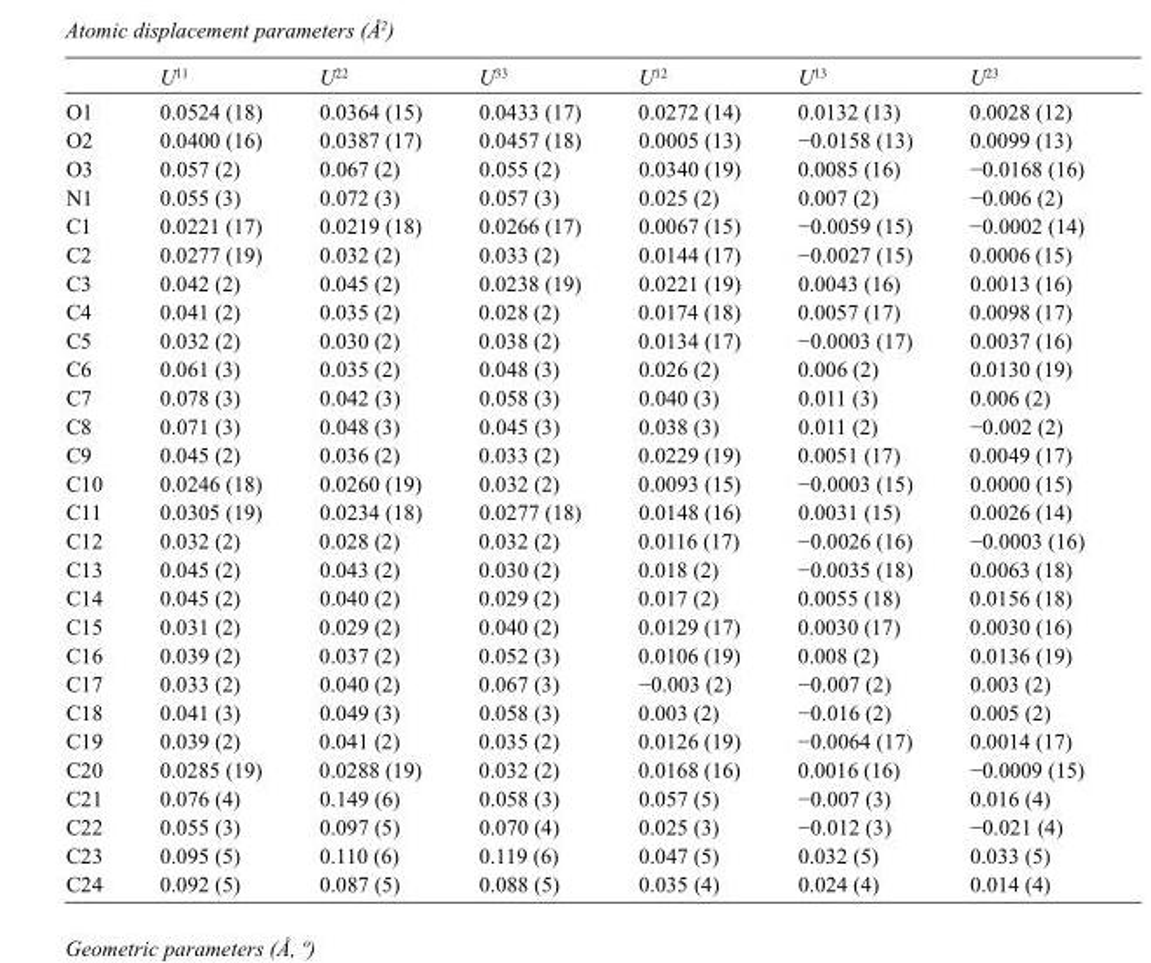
<table><thead><tr><td></td><td>U<sup>11</sup></td><td>U<sup>22</sup></td><td>U<sup>33</sup></td><td>U<sup>12</sup></td><td>U<sup>13</sup></td><td>U<sup>23</sup></td></tr></thead><tbody><tr><td>O1</td><td>0.0524 (18)</td><td>0.0364 (15)</td><td>0.0433 (17)</td><td>0.0272 (14)</td><td>0.0132 (13)</td><td>0.0028 (12)</td></tr><tr><td>O2</td><td>0.0400 (16)</td><td>0.0387 (17)</td><td>0.0457 (18)</td><td>0.0005 (13)</td><td>−0.0158 (13)</td><td>0.0099 (13)</td></tr><tr><td>O3</td><td>0.057 (2)</td><td>0.067 (2)</td><td>0.055 (2)</td><td>0.0340 (19)</td><td>0.0085 (16)</td><td>−0.0168 (16)</td></tr><tr><td>N1</td><td>0.055 (3)</td><td>0.072 (3)</td><td>0.057 (3)</td><td>0.025 (2)</td><td>0.007 (2)</td><td>−0.006 (2)</td></tr><tr><td>C1</td><td>0.0221 (17)</td><td>0.0219 (18)</td><td>0.0266 (17)</td><td>0.0067 (15)</td><td>−0.0059 (15)</td><td>−0.0002 (14)</td></tr><tr><td>C2</td><td>0.0277 (19)</td><td>0.032 (2)</td><td>0.033 (2)</td><td>0.0144 (17)</td><td>−0.0027 (15)</td><td>0.0006 (15)</td></tr><tr><td>C3</td><td>0.042 (2)</td><td>0.045 (2)</td><td>0.0238 (19)</td><td>0.0221 (19)</td><td>0.0043 (16)</td><td>0.0013 (16)</td></tr><tr><td>C4</td><td>0.041 (2)</td><td>0.035 (2)</td><td>0.028 (2)</td><td>0.0174 (18)</td><td>0.0057 (17)</td><td>0.0098 (17)</td></tr><tr><td>C5</td><td>0.032 (2)</td><td>0.030 (2)</td><td>0.038 (2)</td><td>0.0134 (17)</td><td>−0.0003 (17)</td><td>0.0037 (16)</td></tr><tr><td>C6</td><td>0.061 (3)</td><td>0.035 (2)</td><td>0.048 (3)</td><td>0.026 (2)</td><td>0.006 (2)</td><td>0.0130 (19)</td></tr><tr><td>C7</td><td>0.078 (3)</td><td>0.042 (3)</td><td>0.058 (3)</td><td>0.040 (3)</td><td>0.011 (3)</td><td>0.006 (2)</td></tr><tr><td>C8</td><td>0.071 (3)</td><td>0.048 (3)</td><td>0.045 (3)</td><td>0.038 (3)</td><td>0.011 (2)</td><td>−0.002 (2)</td></tr><tr><td>C9</td><td>0.045 (2)</td><td>0.036 (2)</td><td>0.033 (2)</td><td>0.0229 (19)</td><td>0.0051 (17)</td><td>0.0049 (17)</td></tr><tr><td>C10</td><td>0.0246 (18)</td><td>0.0260 (19)</td><td>0.032 (2)</td><td>0.0093 (15)</td><td>−0.0003 (15)</td><td>0.0000 (15)</td></tr><tr><td>C11</td><td>0.0305 (19)</td><td>0.0234 (18)</td><td>0.0277 (18)</td><td>0.0148 (16)</td><td>0.0031 (15)</td><td>0.0026 (14)</td></tr><tr><td>C12</td><td>0.032 (2)</td><td>0.028 (2)</td><td>0.032 (2)</td><td>0.0116 (17)</td><td>−0.0026 (16)</td><td>−0.0003 (16)</td></tr><tr><td>C13</td><td>0.045 (2)</td><td>0.043 (2)</td><td>0.030 (2)</td><td>0.018 (2)</td><td>−0.0035 (18)</td><td>0.0063 (18)</td></tr><tr><td>C14</td><td>0.045 (2)</td><td>0.040 (2)</td><td>0.029 (2)</td><td>0.017 (2)</td><td>0.0055 (18)</td><td>0.0156 (18)</td></tr><tr><td>C15</td><td>0.031 (2)</td><td>0.029 (2)</td><td>0.040 (2)</td><td>0.0129 (17)</td><td>0.0030 (17)</td><td>0.0030 (16)</td></tr><tr><td>C16</td><td>0.039 (2)</td><td>0.037 (2)</td><td>0.052 (3)</td><td>0.0106 (19)</td><td>0.008 (2)</td><td>0.0136 (19)</td></tr><tr><td>C17</td><td>0.033 (2)</td><td>0.040 (2)</td><td>0.067 (3)</td><td>−0.003 (2)</td><td>−0.007 (2)</td><td>0.003 (2)</td></tr><tr><td>C18</td><td>0.041 (3)</td><td>0.049 (3)</td><td>0.058 (3)</td><td>0.003 (2)</td><td>−0.016 (2)</td><td>0.005 (2)</td></tr><tr><td>C19</td><td>0.039 (2)</td><td>0.041 (2)</td><td>0.035 (2)</td><td>0.0126 (19)</td><td>−0.0064 (17)</td><td>0.0014 (17)</td></tr><tr><td>C20</td><td>0.0285 (19)</td><td>0.0288 (19)</td><td>0.032 (2)</td><td>0.0168 (16)</td><td>0.0016 (16)</td><td>−0.0009 (15)</td></tr><tr><td>C21</td><td>0.076 (4)</td><td>0.149 (6)</td><td>0.058 (3)</td><td>0.057 (5)</td><td>−0.007 (3)</td><td>0.016 (4)</td></tr><tr><td>C22</td><td>0.055 (3)</td><td>0.097 (5)</td><td>0.070 (4)</td><td>0.025 (3)</td><td>−0.012 (3)</td><td>−0.021 (4)</td></tr><tr><td>C23</td><td>0.095 (5)</td><td>0.110 (6)</td><td>0.119 (6)</td><td>0.047 (5)</td><td>0.032 (5)</td><td>0.033 (5)</td></tr><tr><td>C24</td><td>0.092 (5)</td><td>0.087 (5)</td><td>0.088 (5)</td><td>0.035 (4)</td><td>0.024 (4)</td><td>0.014 (4)</td></tr></tbody></table>